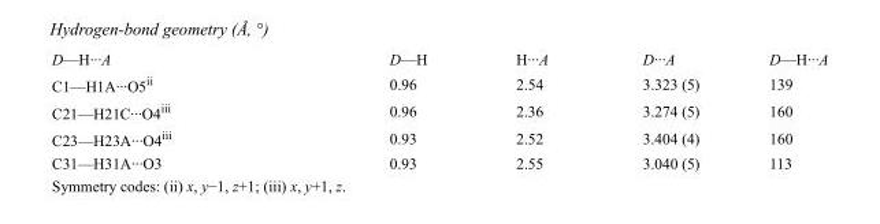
<table><tbody><tr><td>D—H···A</td><td>D—H</td><td>H···A</td><td>D···A</td><td>D—H···A</td></tr><tr><td>C1—H1A···O5<sup>ii</sup></td><td>0.96</td><td>2.54</td><td>3.323 (5)</td><td>139</td></tr><tr><td>C21—H21C···O4<sup>iii</sup></td><td>0.96</td><td>2.36</td><td>3.274 (5)</td><td>160</td></tr><tr><td>C23—H23A···O4<sup>iii</sup></td><td>0.93</td><td>2.52</td><td>3.404 (4)</td><td>160</td></tr><tr><td>C31—H31A···O3</td><td>0.93</td><td>2.55</td><td>3.040 (5)</td><td>113</td></tr></tbody></table>